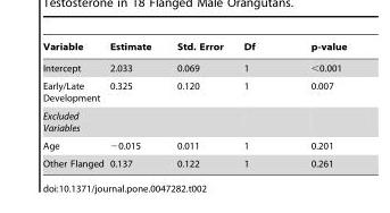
<table><thead><tr><td>Variable</td><td>Estimate</td><td>Std. Error</td><td>Df</td><td>p-value</td></tr></thead><tbody><tr><td>Intercept</td><td>2.033</td><td>0.069</td><td>1</td><td>&lt;0.001</td></tr><tr><td>Early/Late Development</td><td>0.325</td><td>0.120</td><td>1</td><td>0.007</td></tr><tr><td colspan="5">Excluded Variables</td></tr><tr><td>Age</td><td>−0.015</td><td>0.011</td><td>1</td><td>0.201</td></tr><tr><td>Other Flanged</td><td>0.137</td><td>0.122</td><td>1</td><td>0.261</td></tr></tbody></table>